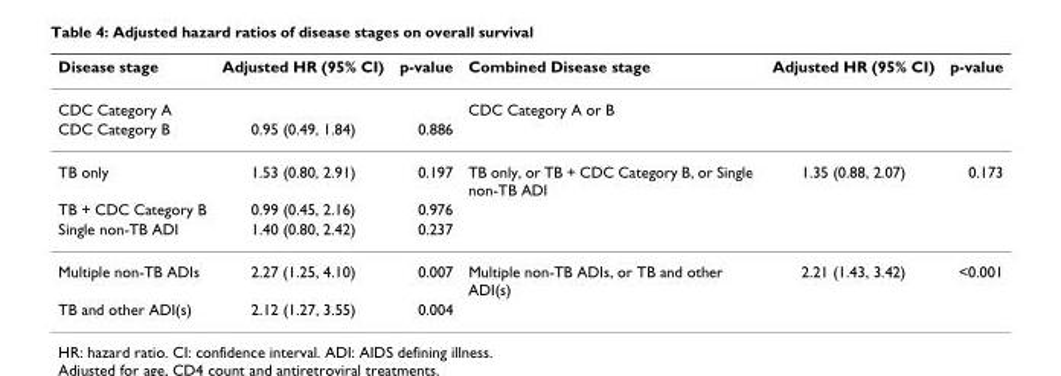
<table><thead><tr><td>Disease stage</td><td>Adjusted HR (95% CI)</td><td>p-value</td><td>Combined Disease stage</td><td>Adjusted HR (95% CI)</td><td>p-value</td></tr></thead><tbody><tr><td>CDC Category A</td><td></td><td></td><td>CDC Category A or B</td><td></td><td></td></tr><tr><td>CDC Category B</td><td>0.95 (0.49, 1.84)</td><td>0.886</td><td></td><td></td><td></td></tr><tr><td>TB only</td><td>1.53 (0.80, 2.91)</td><td>0.197</td><td>TB only, or TB + CDC Category B, or Single non-TB ADI</td><td>1.35 (0.88, 2.07)</td><td>0.173</td></tr><tr><td>TB + CDC Category B</td><td>0.99 (0.45, 2.16)</td><td>0.976</td><td></td><td></td><td></td></tr><tr><td>Single non-TB ADI</td><td>1.40 (0.80, 2.42)</td><td>0.237</td><td></td><td></td><td></td></tr><tr><td>Multiple non-TB ADIs</td><td>2.27 (1.25, 4.10)</td><td>0.007</td><td>Multiple non-TB ADIs, or TB and other ADI(s)</td><td>2.21 (1.43, 3.42)</td><td>&lt;0.001</td></tr><tr><td>TB and other ADI(s)</td><td>2.12 (1.27, 3.55)</td><td>0.004</td><td></td><td></td><td></td></tr></tbody></table>